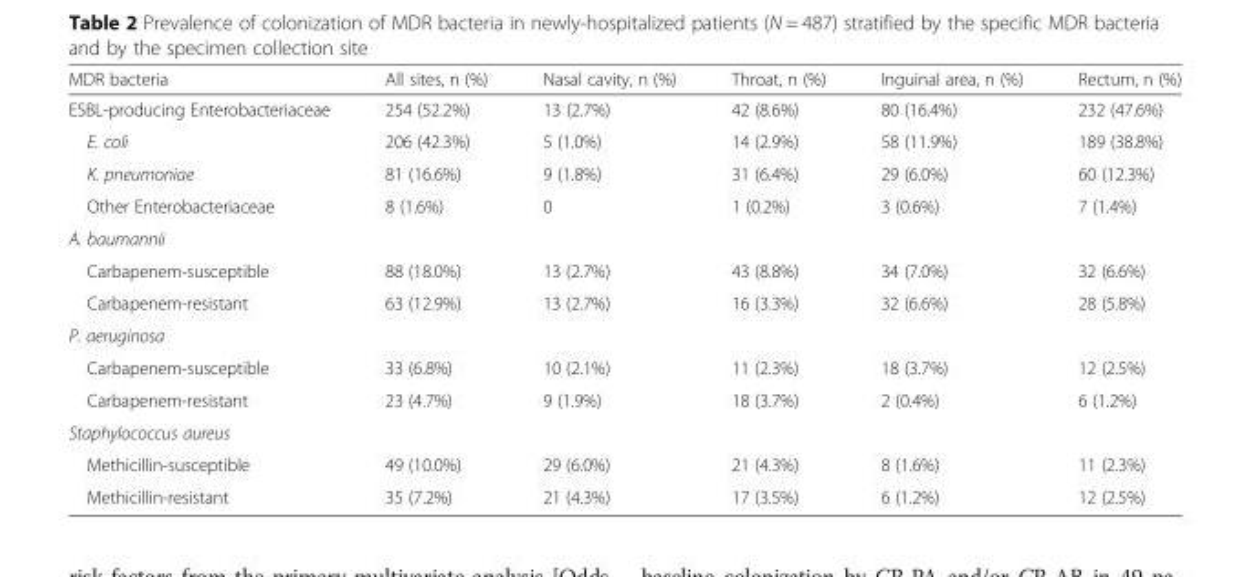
<table><thead><tr><td>MDR bacteria</td><td>All sites, n (%)</td><td>Nasal cavity, n (%)</td><td>Throat, n (%)</td><td>Inguinal area, n (%)</td><td>Rectum, n (%)</td></tr></thead><tbody><tr><td>ESBL-producing Enterobacteriaceae</td><td>254 (52.2%)</td><td>13 (2.7%)</td><td>42 (8.6%)</td><td>80 (16.4%)</td><td>232 (47.6%)</td></tr><tr><td>E. coli</td><td>206 (42.3%)</td><td>5 (1.0%)</td><td>14 (2.9%)</td><td>58 (11.9%)</td><td>189 (38.8%)</td></tr><tr><td>K. pneumoniae</td><td>81 (16.6%)</td><td>9 (1.8%)</td><td>31 (6.4%)</td><td>29 (6.0%)</td><td>60 (12.3%)</td></tr><tr><td>Other Enterobacteriaceae</td><td>8 (1.6%)</td><td>0</td><td>1 (0.2%)</td><td>3 (0.6%)</td><td>7 (1.4%)</td></tr><tr><td colspan="6">A. baumannii</td></tr><tr><td>Carbapenem-susceptible</td><td>88 (18.0%)</td><td>13 (2.7%)</td><td>43 (8.8%)</td><td>34 (7.0%)</td><td>32 (6.6%)</td></tr><tr><td>Carbapenem-resistant</td><td>63 (12.9%)</td><td>13 (2.7%)</td><td>16 (3.3%)</td><td>32 (6.6%)</td><td>28 (5.8%)</td></tr><tr><td colspan="6">P. aeruginosa</td></tr><tr><td>Carbapenem-susceptible</td><td>33 (6.8%)</td><td>10 (2.1%)</td><td>11 (2.3%)</td><td>18 (3.7%)</td><td>12 (2.5%)</td></tr><tr><td>Carbapenem-resistant</td><td>23 (4.7%)</td><td>9 (1.9%)</td><td>18 (3.7%)</td><td>2 (0.4%)</td><td>6 (1.2%)</td></tr><tr><td colspan="6">Staphylococcus aureus</td></tr><tr><td>Methicillin-susceptible</td><td>49 (10.0%)</td><td>29 (6.0%)</td><td>21 (4.3%)</td><td>8 (1.6%)</td><td>11 (2.3%)</td></tr><tr><td>Methicillin-resistant</td><td>35 (7.2%)</td><td>21 (4.3%)</td><td>17 (3.5%)</td><td>6 (1.2%)</td><td>12 (2.5%)</td></tr></tbody></table>